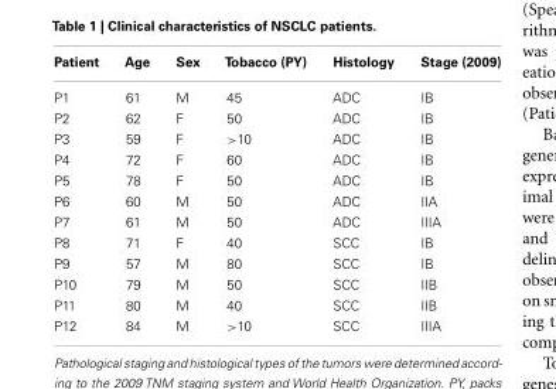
<table><thead><tr><td>Patient</td><td>Age</td><td>Sex</td><td>Tobacco (PY)</td><td>Histology</td><td>Stage (2009)</td></tr></thead><tbody><tr><td>P1</td><td>61</td><td>M</td><td>45</td><td>ADC</td><td>IB</td></tr><tr><td>P2</td><td>62</td><td>F</td><td>50</td><td>ADC</td><td>IB</td></tr><tr><td>P3</td><td>59</td><td>F</td><td>&gt;10</td><td>ADC</td><td>IB</td></tr><tr><td>P4</td><td>72</td><td>F</td><td>60</td><td>ADC</td><td>IB</td></tr><tr><td>P5</td><td>78</td><td>F</td><td>50</td><td>ADC</td><td>IB</td></tr><tr><td>P6</td><td>60</td><td>M</td><td>50</td><td>ADC</td><td>IIA</td></tr><tr><td>P7</td><td>61</td><td>M</td><td>50</td><td>ADC</td><td>IIIA</td></tr><tr><td>P8</td><td>71</td><td>F</td><td>40</td><td>SCC</td><td>IB</td></tr><tr><td>P9</td><td>57</td><td>M</td><td>80</td><td>SCC</td><td>IB</td></tr><tr><td>P10</td><td>79</td><td>M</td><td>50</td><td>SCC</td><td>IIB</td></tr><tr><td>P11</td><td>80</td><td>M</td><td>40</td><td>SCC</td><td>IIB</td></tr><tr><td>P12</td><td>84</td><td>M</td><td>&gt;10</td><td>SCC</td><td>IIIA</td></tr></tbody></table>